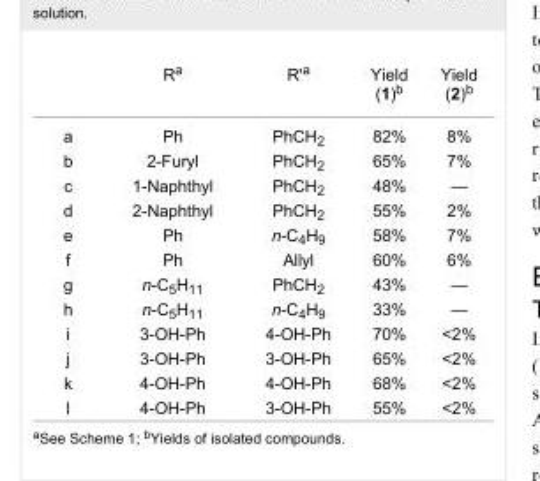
<table><thead><tr><td></td><td>R<sup>a</sup></td><td>R&#x27;<sup>a</sup></td><td>Yield (1)<sup>b</sup></td><td>Yield (2)<sup>b</sup></td></tr></thead><tbody><tr><td>a</td><td>Ph</td><td>PhCH<sub>2</sub></td><td>82%</td><td>8%</td></tr><tr><td>b</td><td>2-Furyl</td><td>PhCH<sub>2</sub></td><td>65%</td><td>7%</td></tr><tr><td>c</td><td>1-Naphthyl</td><td>PhCH<sub>2</sub></td><td>48%</td><td>—</td></tr><tr><td>d</td><td>2-Naphthyl</td><td>PhCH<sub>2</sub></td><td>55%</td><td>2%</td></tr><tr><td>e</td><td>Ph</td><td>n-C<sub>4</sub>H<sub>9</sub></td><td>58%</td><td>7%</td></tr><tr><td>f</td><td>Ph</td><td>Allyl</td><td>60%</td><td>6%</td></tr><tr><td>g</td><td>n-C<sub>5</sub>H<sub>11</sub></td><td>PhCH<sub>2</sub></td><td>43%</td><td>—</td></tr><tr><td>h</td><td>n-C<sub>5</sub>H<sub>11</sub></td><td>n-C<sub>4</sub>H<sub>9</sub></td><td>33%</td><td>—</td></tr><tr><td>i</td><td>3-OH-Ph</td><td>4-OH-Ph</td><td>70%</td><td>&lt;2%</td></tr><tr><td>j</td><td>3-OH-Ph</td><td>3-OH-Ph</td><td>65%</td><td>&lt;2%</td></tr><tr><td>k</td><td>4-OH-Ph</td><td>4-OH-Ph</td><td>68%</td><td>&lt;2%</td></tr><tr><td>l</td><td>4-OH-Ph</td><td>3-OH-Ph</td><td>55%</td><td>&lt;2%</td></tr></tbody></table>